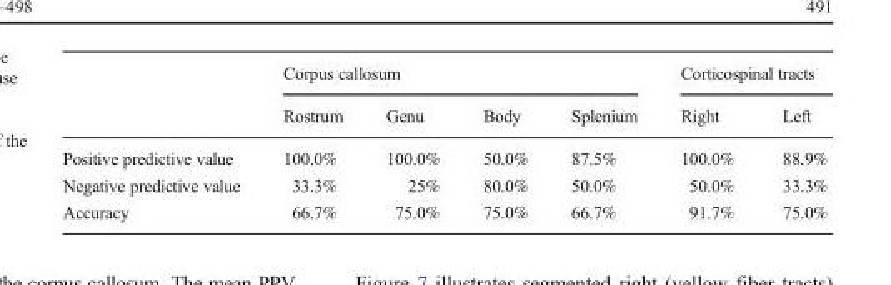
<table><thead><tr><td rowspan="2"></td><td colspan="4">Corpus callosum</td><td colspan="2">Corticospinal tracts</td></tr><tr><td>Rostrum</td><td>Genu</td><td>Body</td><td>Splenium</td><td>Right</td><td>Left</td></tr></thead><tbody><tr><td>Positive predictive value</td><td>100.0%</td><td>100.0%</td><td>50.0%</td><td>87.5%</td><td>100.0%</td><td>88.9%</td></tr><tr><td>Negative predictive value</td><td>33.3%</td><td>25%</td><td>80.0%</td><td>50.0%</td><td>50.0%</td><td>33.3%</td></tr><tr><td>Accuracy</td><td>66.7%</td><td>75.0%</td><td>75.0%</td><td>66.7%</td><td>91.7%</td><td>75.0%</td></tr></tbody></table>